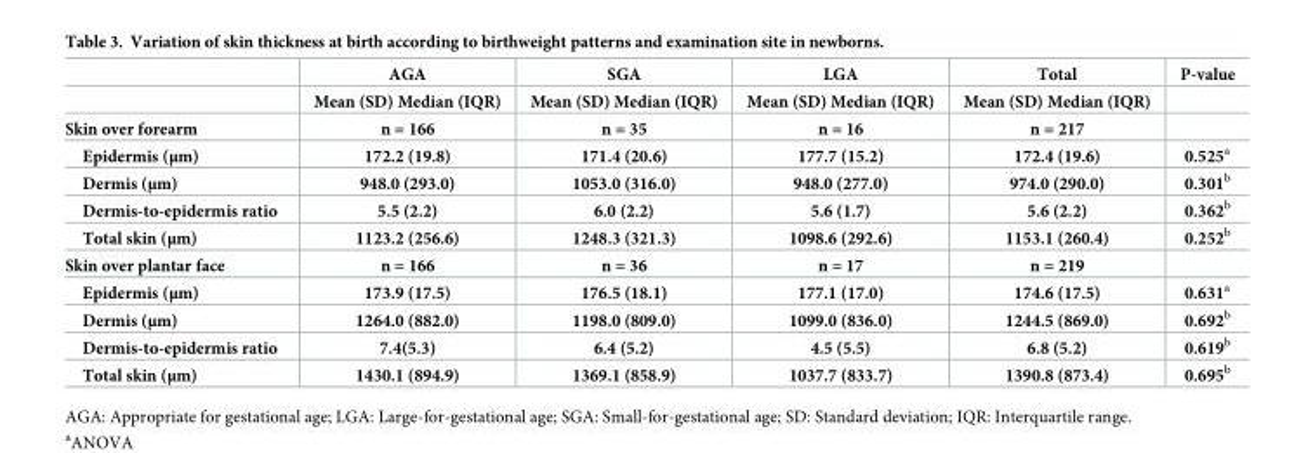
<table><thead><tr><td rowspan="2"></td><td rowspan="2">AGA Mean (SD) Median (IQR)</td><td rowspan="2">SGA Mean (SD) Median (IQR)</td><td rowspan="2">LGA Mean (SD) Median (IQR)</td><td rowspan="2">Total Mean (SD) Median (IQR)</td><td rowspan="2">P-value</td></tr><tr></tr></thead><tbody><tr><td>Skin over forearm</td><td>n = 166</td><td>n = 35</td><td>n = 16</td><td>n = 217</td><td></td></tr><tr><td>Epidermis (μm)</td><td>172.2 (19.8)</td><td>171.4 (20.6)</td><td>177.7 (15.2)</td><td>172.4 (19.6)</td><td>0.525<sup>a</sup></td></tr><tr><td>Dermis (μm)</td><td>948.0 (293.0)</td><td>1053.0 (316.0)</td><td>948.0 (277.0)</td><td>974.0 (290.0)</td><td>0.301<sup>b</sup></td></tr><tr><td>Dermis-to-epidermis ratio</td><td>5.5 (2.2)</td><td>6.0 (2.2)</td><td>5.6 (1.7)</td><td>5.6 (2.2)</td><td>0.362<sup>b</sup></td></tr><tr><td>Total skin (μm)</td><td>1123.2 (256.6)</td><td>1248.3 (321.3)</td><td>1098.6 (292.6)</td><td>1153.1 (260.4)</td><td>0.252<sup>b</sup></td></tr><tr><td>Skin over plantar face</td><td>n = 166</td><td>n = 36</td><td>n = 17</td><td>n = 219</td><td></td></tr><tr><td>Epidermis (μm)</td><td>173.9 (17.5)</td><td>176.5 (18.1)</td><td>177.1 (17.0)</td><td>174.6 (17.5)</td><td>0.631<sup>a</sup></td></tr><tr><td>Dermis (μm)</td><td>1264.0 (882.0)</td><td>1198.0 (809.0)</td><td>1099.0 (836.0)</td><td>1244.5 (869.0)</td><td>0.692<sup>b</sup></td></tr><tr><td>Dermis-to-epidermis ratio</td><td>7.4(5.3)</td><td>6.4 (5.2)</td><td>4.5 (5.5)</td><td>6.8 (5.2)</td><td>0.619<sup>b</sup></td></tr><tr><td>Total skin (μm)</td><td>1430.1 (894.9)</td><td>1369.1 (858.9)</td><td>1037.7 (833.7)</td><td>1390.8 (873.4)</td><td>0.695<sup>b</sup></td></tr></tbody></table>